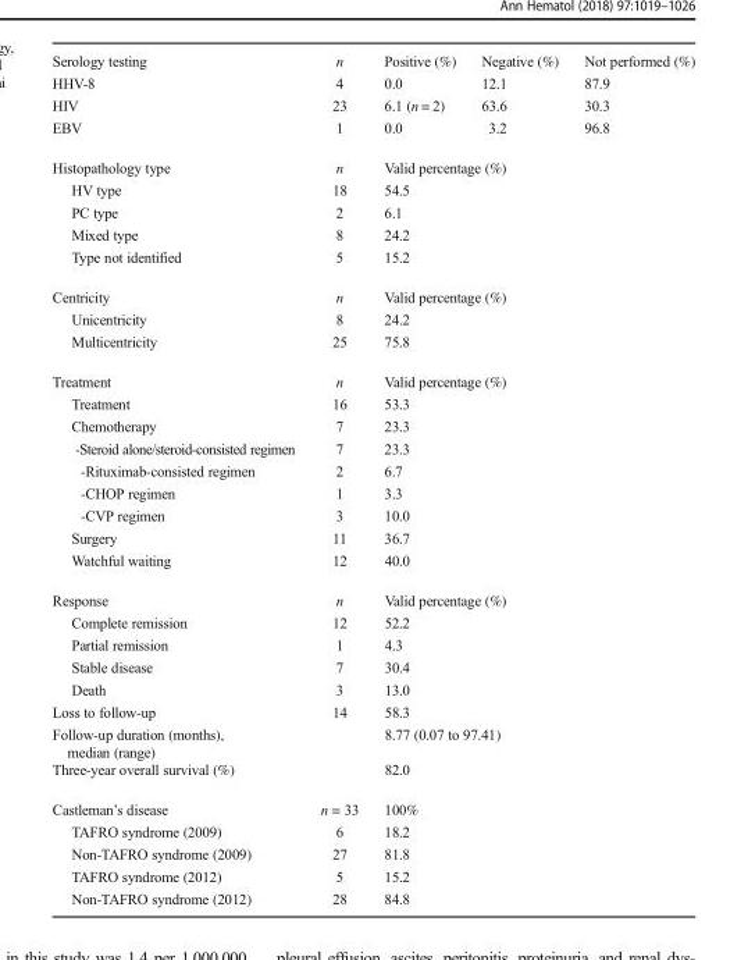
<table><tbody><tr><td>Serology testing</td><td>n</td><td>Positive (%)</td><td>Negative (%)</td><td>Not performed (%)</td></tr><tr><td>HHV-8</td><td>4</td><td>0.0</td><td>12.1</td><td>87.9</td></tr><tr><td>HIV</td><td>23</td><td>6.1 (n = 2)</td><td>63.6</td><td>30.3</td></tr><tr><td>EBV</td><td>1</td><td>0.0</td><td>3.2</td><td>96.8</td></tr><tr><td>Histopathology type</td><td>n</td><td colspan="3">Valid percentage (%)</td></tr><tr><td>HV type</td><td>18</td><td colspan="3">54.5</td></tr><tr><td>PC type</td><td>2</td><td colspan="3">6.1</td></tr><tr><td>Mixed type</td><td>8</td><td colspan="3">24.2</td></tr><tr><td>Type not identified</td><td>5</td><td colspan="3">15.2</td></tr><tr><td>Centricity</td><td>n</td><td colspan="3">Valid percentage (%)</td></tr><tr><td>Unicentricity</td><td>8</td><td colspan="3">24.2</td></tr><tr><td>Multicentricity</td><td>25</td><td colspan="3">75.8</td></tr><tr><td>Treatment</td><td>n</td><td colspan="3">Valid percentage (%)</td></tr><tr><td>Treatment</td><td>16</td><td colspan="3">53.3</td></tr><tr><td>Chemotherapy</td><td>7</td><td colspan="3">23.3</td></tr><tr><td>-Steroid alone/steroid-consisted regimen</td><td>7</td><td colspan="3">23.3</td></tr><tr><td>-Rituximab-consisted regimen</td><td>2</td><td colspan="3">6.7</td></tr><tr><td>-CHOP regimen</td><td>1</td><td colspan="3">3.3</td></tr><tr><td>-CVP regimen</td><td>3</td><td colspan="3">10.0</td></tr><tr><td>Surgery</td><td>11</td><td colspan="3">36.7</td></tr><tr><td>Watchful waiting</td><td>12</td><td colspan="3">40.0</td></tr><tr><td>Response</td><td>n</td><td colspan="3">Valid percentage (%)</td></tr><tr><td>Complete remission</td><td>12</td><td colspan="3">52.2</td></tr><tr><td>Partial remission</td><td>1</td><td colspan="3">4.3</td></tr><tr><td>Stable disease</td><td>7</td><td colspan="3">30.4</td></tr><tr><td>Death</td><td>3</td><td colspan="3">13.0</td></tr><tr><td>Loss to follow-up</td><td>14</td><td colspan="3">58.3</td></tr><tr><td>Follow-up duration (months), median (range)</td><td></td><td colspan="3">8.77 (0.07 to 97.41)</td></tr><tr><td>Three-year overall survival (%)</td><td></td><td colspan="3">82.0</td></tr><tr><td>Castleman’s disease</td><td>n = 33</td><td colspan="3">100%</td></tr><tr><td>TAFRO syndrome (2009)</td><td>6</td><td colspan="3">18.2</td></tr><tr><td>Non-TAFRO syndrome (2009)</td><td>27</td><td colspan="3">81.8</td></tr><tr><td>TAFRO syndrome (2012)</td><td>5</td><td colspan="3">15.2</td></tr><tr><td>Non-TAFRO syndrome (2012)</td><td>28</td><td colspan="3">84.8</td></tr></tbody></table>